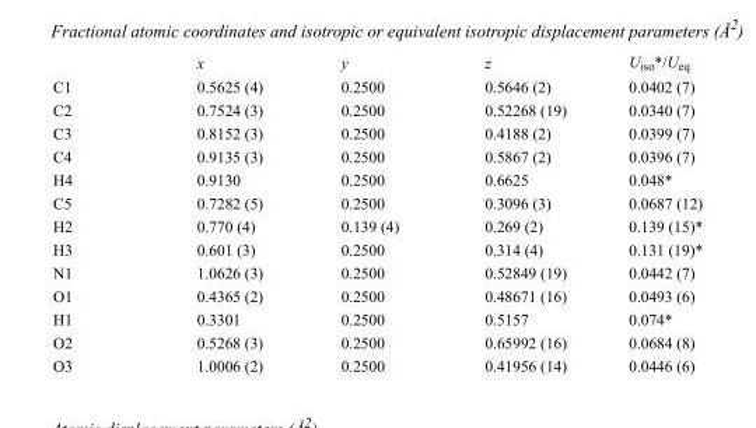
<table><thead><tr><td></td><td>x</td><td>y</td><td>z</td><td>U<sub>iso</sub>*/U<sub>eq</sub></td></tr></thead><tbody><tr><td>C1</td><td>0.5625 (4)</td><td>0.2500</td><td>0.5646 (2)</td><td>0.0402 (7)</td></tr><tr><td>C2</td><td>0.7524 (3)</td><td>0.2500</td><td>0.52268 (19)</td><td>0.0340 (7)</td></tr><tr><td>C3</td><td>0.8152 (3)</td><td>0.2500</td><td>0.4188 (2)</td><td>0.0399 (7)</td></tr><tr><td>C4</td><td>0.9135 (3)</td><td>0.2500</td><td>0.5867 (2)</td><td>0.0396 (7)</td></tr><tr><td>H4</td><td>0.9130</td><td>0.2500</td><td>0.6625</td><td>0.048*</td></tr><tr><td>C5</td><td>0.7282 (5)</td><td>0.2500</td><td>0.3096 (3)</td><td>0.0687 (12)</td></tr><tr><td>H2</td><td>0.770 (4)</td><td>0.139 (4)</td><td>0.269 (2)</td><td>0.139 (15)*</td></tr><tr><td>H3</td><td>0.601 (3)</td><td>0.2500</td><td>0.314 (4)</td><td>0.131 (19)*</td></tr><tr><td>N1</td><td>1.0626 (3)</td><td>0.2500</td><td>0.52849 (19)</td><td>0.0442 (7)</td></tr><tr><td>O1</td><td>0.4365 (2)</td><td>0.2500</td><td>0.48671 (16)</td><td>0.0493 (6)</td></tr><tr><td>H1</td><td>0.3301</td><td>0.2500</td><td>0.5157</td><td>0.074*</td></tr><tr><td>O2</td><td>0.5268 (3)</td><td>0.2500</td><td>0.65992 (16)</td><td>0.0684 (8)</td></tr><tr><td>O3</td><td>1.0006 (2)</td><td>0.2500</td><td>0.41956 (14)</td><td>0.0446 (6)</td></tr></tbody></table>